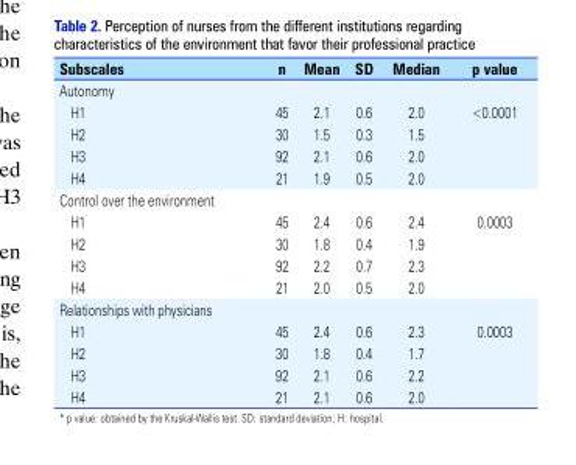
<table><thead><tr><td>Subscales</td><td>n</td><td>Mean</td><td>SD</td><td>Median</td><td>p value</td></tr></thead><tbody><tr><td colspan="6">Autonomy</td></tr><tr><td>H1</td><td>45</td><td>2.1</td><td>0.6</td><td>2.0</td><td rowspan="4">&lt;0.0001</td></tr><tr><td>H2</td><td>30</td><td>1.5</td><td>0.3</td><td>1.5</td></tr><tr><td>H3</td><td>92</td><td>2.1</td><td>0.6</td><td>2.0</td></tr><tr><td>H4</td><td>21</td><td>1.9</td><td>0.5</td><td>2.0</td></tr><tr><td colspan="6">Control over the environment</td></tr><tr><td>H1</td><td>45</td><td>2.4</td><td>0.6</td><td>2.4</td><td rowspan="4">0.0003</td></tr><tr><td>H2</td><td>30</td><td>1.8</td><td>0.4</td><td>1.9</td></tr><tr><td>H3</td><td>92</td><td>2.2</td><td>0.7</td><td>2.3</td></tr><tr><td>H4</td><td>21</td><td>2.0</td><td>0.5</td><td>2.0</td></tr><tr><td colspan="6">Relationships with physicians</td></tr><tr><td>H1</td><td>45</td><td>2.4</td><td>0.6</td><td>2.3</td><td rowspan="4">0.0003</td></tr><tr><td>H2</td><td>30</td><td>1.8</td><td>0.4</td><td>1.7</td></tr><tr><td>H3</td><td>92</td><td>2.1</td><td>0.6</td><td>2.2</td></tr><tr><td>H4</td><td>21</td><td>2.1</td><td>0.6</td><td>2.0</td></tr></tbody></table>